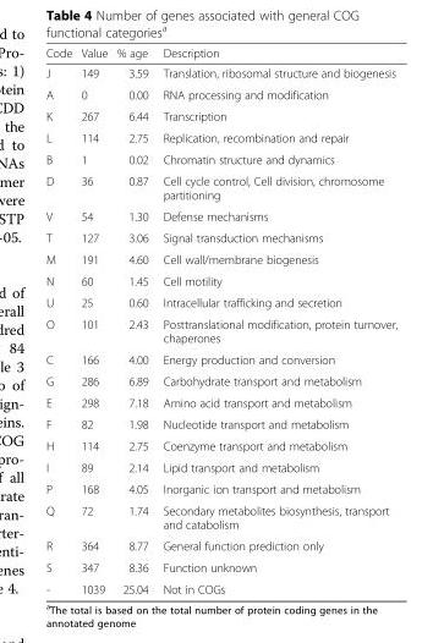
<table><thead><tr><td>Code</td><td>Value</td><td>% age</td><td>Description</td></tr></thead><tbody><tr><td>J</td><td>149</td><td>3.59</td><td>Translation, ribosomal structure and biogenesis</td></tr><tr><td>A</td><td>0</td><td>0.00</td><td>RNA processing and modification</td></tr><tr><td>K</td><td>267</td><td>6.44</td><td>Transcription</td></tr><tr><td>L</td><td>114</td><td>2.75</td><td>Replication, recombination and repair</td></tr><tr><td>B</td><td>1</td><td>0.02</td><td>Chromatin structure and dynamics</td></tr><tr><td>D</td><td>36</td><td>0.87</td><td>Cell cycle control, Cell division, chromosome partitioning</td></tr><tr><td>V</td><td>54</td><td>1.30</td><td>Defense mechanisms</td></tr><tr><td>T</td><td>127</td><td>3.06</td><td>Signal transduction mechanisms</td></tr><tr><td>M</td><td>191</td><td>4.60</td><td>Cell wall/membrane biogenesis</td></tr><tr><td>N</td><td>60</td><td>1.45</td><td>Cell motility</td></tr><tr><td>U</td><td>25</td><td>0.60</td><td>Intracellular trafficking and secretion</td></tr><tr><td>O</td><td>101</td><td>2.43</td><td>Posttranslational modification, protein turnover, chaperones</td></tr><tr><td>C</td><td>166</td><td>4.00</td><td>Energy production and conversion</td></tr><tr><td>G</td><td>286</td><td>6.89</td><td>Carbohydrate transport and metabolism</td></tr><tr><td>E</td><td>298</td><td>7.18</td><td>Amino acid transport and metabolism</td></tr><tr><td>F</td><td>82</td><td>1.98</td><td>Nucleotide transport and metabolism</td></tr><tr><td>H</td><td>114</td><td>2.75</td><td>Coenzyme transport and metabolism</td></tr><tr><td>I</td><td>89</td><td>2.14</td><td>Lipid transport and metabolism</td></tr><tr><td>P</td><td>168</td><td>4.05</td><td>Inorganic ion transport and metabolism</td></tr><tr><td>Q</td><td>72</td><td>1.74</td><td>Secondary metabolites biosynthesis, transport and catabolism</td></tr><tr><td>R</td><td>364</td><td>8.77</td><td>General function prediction only</td></tr><tr><td>S</td><td>347</td><td>8.36</td><td>Function unknown</td></tr><tr><td>-</td><td>1039</td><td>25.04</td><td>Not in COGs</td></tr></tbody></table>